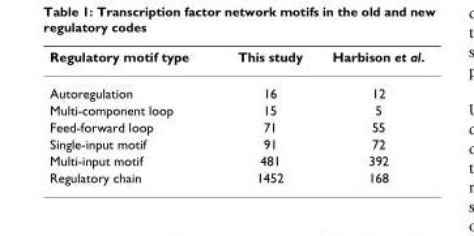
<table><thead><tr><td>Regulatory motif type</td><td>This study</td><td>Harbison et al.</td></tr></thead><tbody><tr><td>Autoregulation</td><td>16</td><td>12</td></tr><tr><td>Multi-component loop</td><td>15</td><td>5</td></tr><tr><td>Feed-forward loop</td><td>71</td><td>55</td></tr><tr><td>Single-input motif</td><td>91</td><td>72</td></tr><tr><td>Multi-input motif</td><td>481</td><td>392</td></tr><tr><td>Regulatory chain</td><td>1452</td><td>168</td></tr></tbody></table>